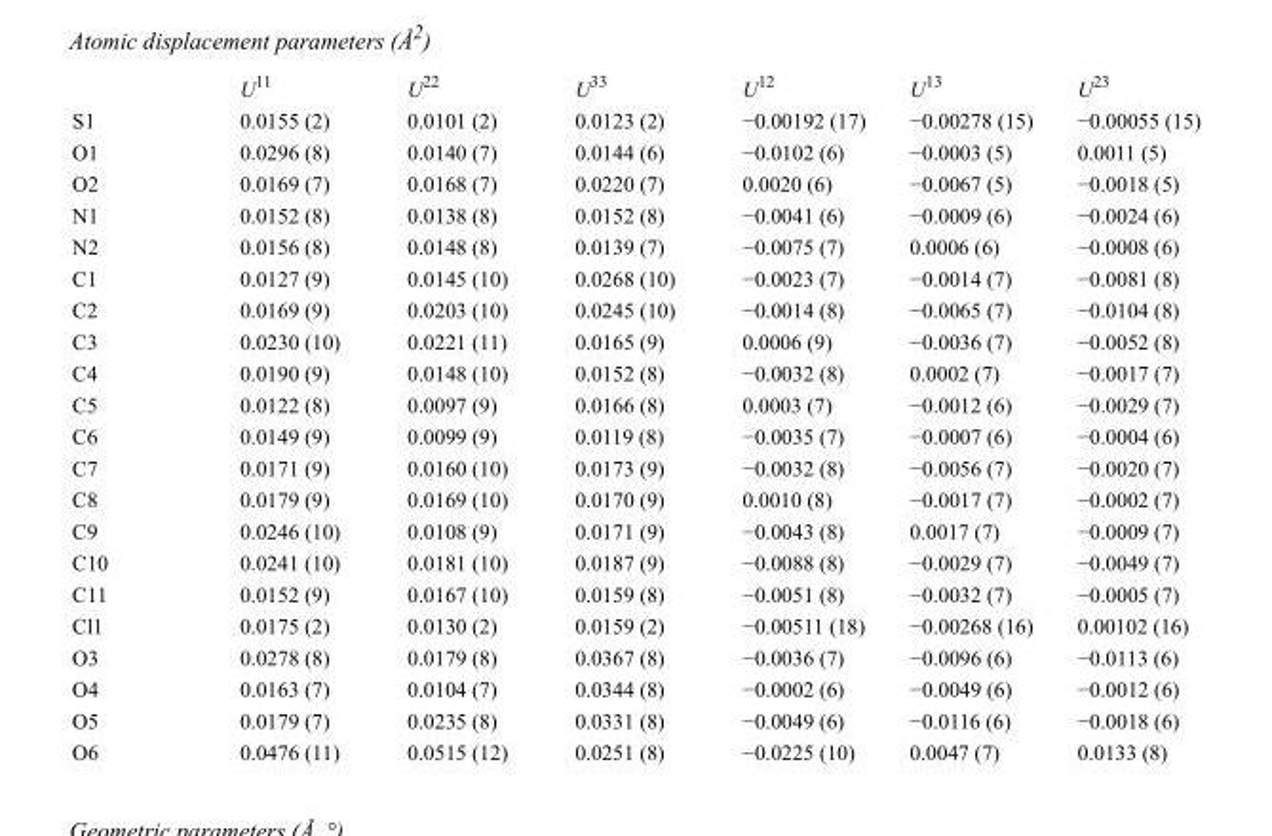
<table><thead><tr><td></td><td>U<sup>11</sup></td><td>U<sup>22</sup></td><td>U<sup>33</sup></td><td>U<sup>12</sup></td><td>U<sup>13</sup></td><td>U<sup>23</sup></td></tr></thead><tbody><tr><td>S1</td><td>0.0155 (2)</td><td>0.0101 (2)</td><td>0.0123 (2)</td><td>−0.00192 (17)</td><td>−0.00278 (15)</td><td>−0.00055 (15)</td></tr><tr><td>O1</td><td>0.0296 (8)</td><td>0.0140 (7)</td><td>0.0144 (6)</td><td>−0.0102 (6)</td><td>−0.0003 (5)</td><td>0.0011 (5)</td></tr><tr><td>O2</td><td>0.0169 (7)</td><td>0.0168 (7)</td><td>0.0220 (7)</td><td>0.0020 (6)</td><td>−0.0067 (5)</td><td>−0.0018 (5)</td></tr><tr><td>N1</td><td>0.0152 (8)</td><td>0.0138 (8)</td><td>0.0152 (8)</td><td>−0.0041 (6)</td><td>−0.0009 (6)</td><td>−0.0024 (6)</td></tr><tr><td>N2</td><td>0.0156 (8)</td><td>0.0148 (8)</td><td>0.0139 (7)</td><td>−0.0075 (7)</td><td>0.0006 (6)</td><td>−0.0008 (6)</td></tr><tr><td>C1</td><td>0.0127 (9)</td><td>0.0145 (10)</td><td>0.0268 (10)</td><td>−0.0023 (7)</td><td>−0.0014 (7)</td><td>−0.0081 (8)</td></tr><tr><td>C2</td><td>0.0169 (9)</td><td>0.0203 (10)</td><td>0.0245 (10)</td><td>−0.0014 (8)</td><td>−0.0065 (7)</td><td>−0.0104 (8)</td></tr><tr><td>C3</td><td>0.0230 (10)</td><td>0.0221 (11)</td><td>0.0165 (9)</td><td>0.0006 (9)</td><td>−0.0036 (7)</td><td>−0.0052 (8)</td></tr><tr><td>C4</td><td>0.0190 (9)</td><td>0.0148 (10)</td><td>0.0152 (8)</td><td>−0.0032 (8)</td><td>0.0002 (7)</td><td>−0.0017 (7)</td></tr><tr><td>C5</td><td>0.0122 (8)</td><td>0.0097 (9)</td><td>0.0166 (8)</td><td>0.0003 (7)</td><td>−0.0012 (6)</td><td>−0.0029 (7)</td></tr><tr><td>C6</td><td>0.0149 (9)</td><td>0.0099 (9)</td><td>0.0119 (8)</td><td>−0.0035 (7)</td><td>−0.0007 (6)</td><td>−0.0004 (6)</td></tr><tr><td>C7</td><td>0.0171 (9)</td><td>0.0160 (10)</td><td>0.0173 (9)</td><td>−0.0032 (8)</td><td>−0.0056 (7)</td><td>−0.0020 (7)</td></tr><tr><td>C8</td><td>0.0179 (9)</td><td>0.0169 (10)</td><td>0.0170 (9)</td><td>0.0010 (8)</td><td>−0.0017 (7)</td><td>−0.0002 (7)</td></tr><tr><td>C9</td><td>0.0246 (10)</td><td>0.0108 (9)</td><td>0.0171 (9)</td><td>−0.0043 (8)</td><td>0.0017 (7)</td><td>−0.0009 (7)</td></tr><tr><td>C10</td><td>0.0241 (10)</td><td>0.0181 (10)</td><td>0.0187 (9)</td><td>−0.0088 (8)</td><td>−0.0029 (7)</td><td>−0.0049 (7)</td></tr><tr><td>C11</td><td>0.0152 (9)</td><td>0.0167 (10)</td><td>0.0159 (8)</td><td>−0.0051 (8)</td><td>−0.0032 (7)</td><td>−0.0005 (7)</td></tr><tr><td>Cl1</td><td>0.0175 (2)</td><td>0.0130 (2)</td><td>0.0159 (2)</td><td>−0.00511 (18)</td><td>−0.00268 (16)</td><td>0.00102 (16)</td></tr><tr><td>O3</td><td>0.0278 (8)</td><td>0.0179 (8)</td><td>0.0367 (8)</td><td>−0.0036 (7)</td><td>−0.0096 (6)</td><td>−0.0113 (6)</td></tr><tr><td>O4</td><td>0.0163 (7)</td><td>0.0104 (7)</td><td>0.0344 (8)</td><td>−0.0002 (6)</td><td>−0.0049 (6)</td><td>−0.0012 (6)</td></tr><tr><td>O5</td><td>0.0179 (7)</td><td>0.0235 (8)</td><td>0.0331 (8)</td><td>−0.0049 (6)</td><td>−0.0116 (6)</td><td>−0.0018 (6)</td></tr><tr><td>O6</td><td>0.0476 (11)</td><td>0.0515 (12)</td><td>0.0251 (8)</td><td>−0.0225 (10)</td><td>0.0047 (7)</td><td>0.0133 (8)</td></tr></tbody></table>